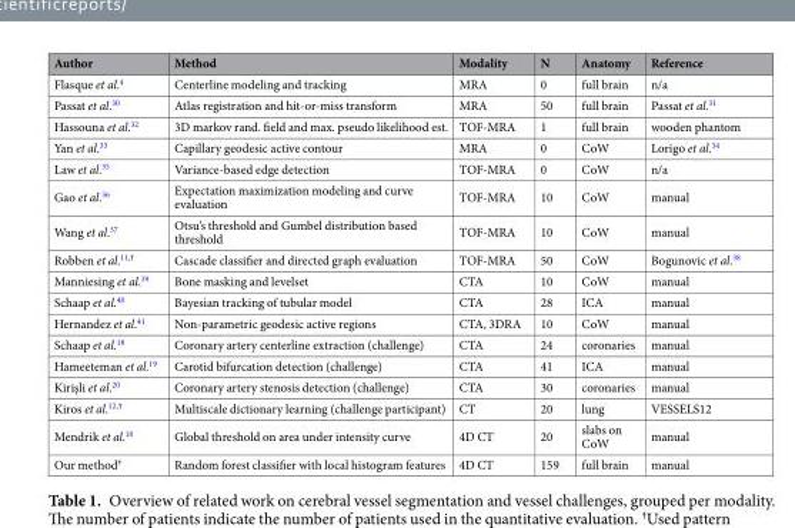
<table><thead><tr><td>Author</td><td>Method</td><td>Modality</td><td>N</td><td>Anatomy</td><td>Reference</td></tr></thead><tbody><tr><td>Flasque et al.<sup>4</sup></td><td>Centerline modeling and tracking</td><td>MRA</td><td>0</td><td>full brain</td><td>n/a</td></tr><tr><td>Passat et al.<sup>30</sup></td><td>Atlas registration and hit-or-miss transform</td><td>MRA</td><td>50</td><td>full brain</td><td>Passat et al.<sup>31</sup></td></tr><tr><td>Hassouna et al.<sup>32</sup></td><td>3D markov rand. field and max. pseudo likelihood est.</td><td>TOF-MRA</td><td>1</td><td>full brain</td><td>wooden phantom</td></tr><tr><td>Yan et al.<sup>33</sup></td><td>Capillary geodesic active contour</td><td>MRA</td><td>0</td><td>CoW</td><td>Lorigo et al.<sup>34</sup></td></tr><tr><td>Law et al.<sup>35</sup></td><td>Variance-based edge detection</td><td>TOF-MRA</td><td>0</td><td>CoW</td><td>n/a</td></tr><tr><td>Gao et al.<sup>36</sup></td><td>Expectation maximization modeling and curve evaluation</td><td>TOF-MRA</td><td>10</td><td>CoW</td><td>manual</td></tr><tr><td>Wang et al.<sup>37</sup></td><td>Otsu’s threshold and Gumbel distribution based threshold</td><td>TOF-MRA</td><td>10</td><td>CoW</td><td>manual</td></tr><tr><td>Robben et al.<sup>11,†</sup></td><td>Cascade classifier and directed graph evaluation</td><td>TOF-MRA</td><td>50</td><td>CoW</td><td>Bogunovic et al.<sup>38</sup></td></tr><tr><td>Manniesing et al.<sup>39</sup></td><td>Bone masking and levelset</td><td>CTA</td><td>10</td><td>CoW</td><td>manual</td></tr><tr><td>Schaap et al.<sup>40</sup></td><td>Bayesian tracking of tubular model</td><td>CTA</td><td>28</td><td>ICA</td><td>manual</td></tr><tr><td>Hernandez et al.<sup>41</sup></td><td>Non-parametric geodesic active regions</td><td>CTA, 3DRA</td><td>10</td><td>CoW</td><td>manual</td></tr><tr><td>Schaap et al.<sup>18</sup></td><td>Coronary artery centerline extraction (challenge)</td><td>CTA</td><td>24</td><td>coronaries</td><td>manual</td></tr><tr><td>Hameeteman et al.<sup>19</sup></td><td>Carotid bifurcation detection (challenge)</td><td>CTA</td><td>41</td><td>ICA</td><td>manual</td></tr><tr><td>Kirişli et al.<sup>20</sup></td><td>Coronary artery stenosis detection (challenge)</td><td>CTA</td><td>30</td><td>coronaries</td><td>manual</td></tr><tr><td>Kiros et al.<sup>12,†</sup></td><td>Multiscale dictionary learning (challenge participant)</td><td>CT</td><td>20</td><td>lung</td><td>VESSELS12</td></tr><tr><td>Mendrik et al.<sup>10</sup></td><td>Global threshold on area under intensity curve</td><td>4D CT</td><td>20</td><td>slabs on CoW</td><td>manual</td></tr><tr><td>Our method<sup>†</sup></td><td>Random forest classifier with local histogram features</td><td>4D CT</td><td>159</td><td>full brain</td><td>manual</td></tr></tbody></table>